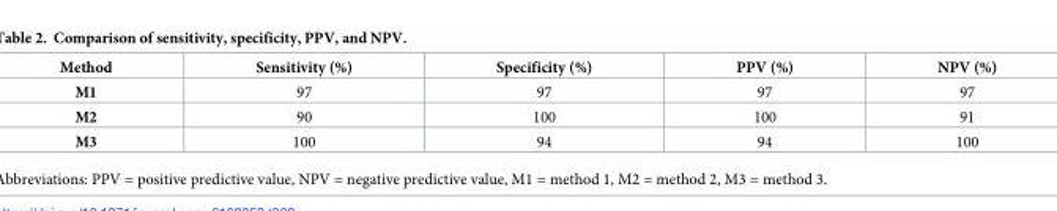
<table><thead><tr><td>Method</td><td>Sensitivity (%)</td><td>Specificity (%)</td><td>PPV (%)</td><td>NPV (%)</td></tr></thead><tbody><tr><td>M1</td><td>97</td><td>97</td><td>97</td><td>97</td></tr><tr><td>M2</td><td>90</td><td>100</td><td>100</td><td>91</td></tr><tr><td>M3</td><td>100</td><td>94</td><td>94</td><td>100</td></tr></tbody></table>